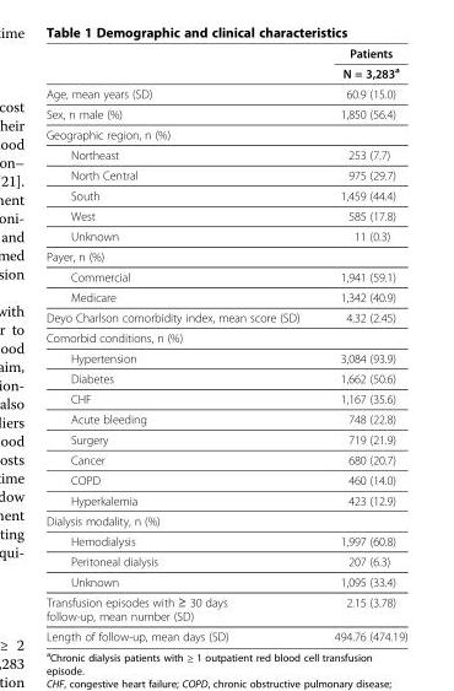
<table><thead><tr><td rowspan="2"></td><td rowspan="2">Patients N = 3,283<sup>a</sup></td></tr><tr></tr></thead><tbody><tr><td>Age, mean years (SD)</td><td>60.9 (15.0)</td></tr><tr><td>Sex, n male (%)</td><td>1,850 (56.4)</td></tr><tr><td colspan="2">Geographic region, n (%)</td></tr><tr><td>Northeast</td><td>253 (7.7)</td></tr><tr><td>North Central</td><td>975 (29.7)</td></tr><tr><td>South</td><td>1,459 (44.4)</td></tr><tr><td>West</td><td>585 (17.8)</td></tr><tr><td>Unknown</td><td>11 (0.3)</td></tr><tr><td colspan="2">Payer, n (%)</td></tr><tr><td>Commercial</td><td>1,941 (59.1)</td></tr><tr><td>Medicare</td><td>1,342 (40.9)</td></tr><tr><td>Deyo Charlson comorbidity index, mean score (SD)</td><td>4.32 (2.45)</td></tr><tr><td colspan="2">Comorbid conditions, n (%)</td></tr><tr><td>Hypertension</td><td>3,084 (93.9)</td></tr><tr><td>Diabetes</td><td>1,662 (50.6)</td></tr><tr><td>CHF</td><td>1,167 (35.6)</td></tr><tr><td>Acute bleeding</td><td>748 (22.8)</td></tr><tr><td>Surgery</td><td>719 (21.9)</td></tr><tr><td>Cancer</td><td>680 (20.7)</td></tr><tr><td>COPD</td><td>460 (14.0)</td></tr><tr><td>Hyperkalemia</td><td>423 (12.9)</td></tr><tr><td colspan="2">Dialysis modality, n (%)</td></tr><tr><td>Hemodialysis</td><td>1,997 (60.8)</td></tr><tr><td>Peritoneal dialysis</td><td>207 (6.3)</td></tr><tr><td>Unknown</td><td>1,095 (33.4)</td></tr><tr><td>Transfusion episodes with ≥ 30 days follow-up, mean number (SD)</td><td>2.15 (3.78)</td></tr><tr><td>Length of follow-up, mean days (SD)</td><td>494.76 (474.19)</td></tr></tbody></table>